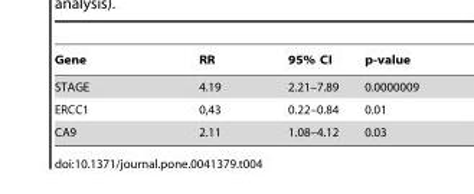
<table><thead><tr><td>Gene</td><td>RR</td><td>95% CI</td><td>p-value</td></tr></thead><tbody><tr><td>STAGE</td><td>4.19</td><td>2.21–7.89</td><td>0.0000009</td></tr><tr><td>ERCC1</td><td>0,43</td><td>0.22–0.84</td><td>0.01</td></tr><tr><td>CA9</td><td>2.11</td><td>1.08–4.12</td><td>0.03</td></tr></tbody></table>